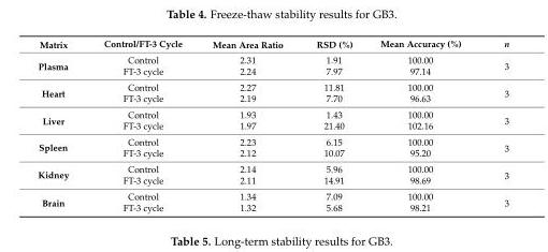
<table><thead><tr><td>Matrix</td><td>Control/FT-3 Cycle</td><td>Mean Area Ratio</td><td>RSD (%)</td><td>Mean Accuracy (%)</td><td>n</td></tr></thead><tbody><tr><td rowspan="2">Plasma</td><td>Control</td><td>2.31</td><td>1.91</td><td>100.00</td><td rowspan="2">3</td></tr><tr><td>FT-3 cycle</td><td>2.24</td><td>7.97</td><td>97.14</td></tr><tr><td rowspan="2">Heart</td><td>Control</td><td>2.27</td><td>11.81</td><td>100.00</td><td rowspan="2">3</td></tr><tr><td>FT-3 cycle</td><td>2.19</td><td>7.70</td><td>96.63</td></tr><tr><td rowspan="2">Liver</td><td>Control</td><td>1.93</td><td>1.43</td><td>100.00</td><td rowspan="2">3</td></tr><tr><td>FT-3 cycle</td><td>1.97</td><td>21.40</td><td>102.16</td></tr><tr><td rowspan="2">Spleen</td><td>Control</td><td>2.23</td><td>6.15</td><td>100.00</td><td rowspan="2">3</td></tr><tr><td>FT-3 cycle</td><td>2.12</td><td>10.07</td><td>95.20</td></tr><tr><td rowspan="2">Kidney</td><td>Control</td><td>2.14</td><td>5.96</td><td>100.00</td><td rowspan="2">3</td></tr><tr><td>FT-3 cycle</td><td>2.11</td><td>14.91</td><td>98.69</td></tr><tr><td rowspan="2">Brain</td><td>Control</td><td>1.34</td><td>7.09</td><td>100.00</td><td rowspan="2">3</td></tr><tr><td>FT-3 cycle</td><td>1.32</td><td>5.68</td><td>98.21</td></tr></tbody></table>